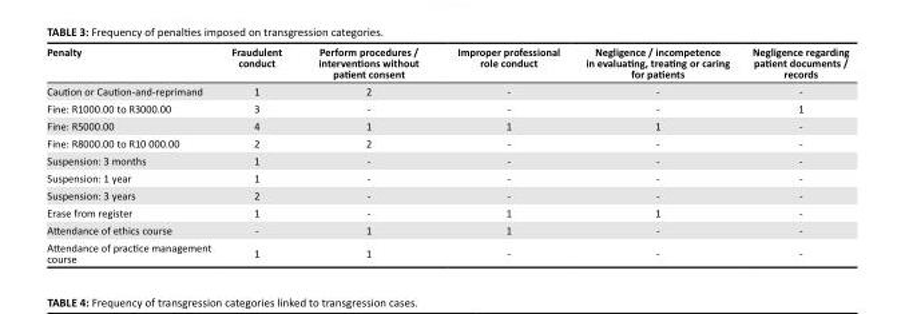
<table><thead><tr><td>Penalty</td><td>Fraudulent conduct</td><td>Perform procedures / interventions without patient consent</td><td>Improper professional role conduct</td><td>Negligence / incompetence in evaluating, treating or caring for patients</td><td>Negligence regarding patient documents / records</td></tr></thead><tbody><tr><td>Caution or Caution-and-reprimand</td><td>1</td><td>2</td><td>-</td><td>-</td><td>-</td></tr><tr><td>Fine: R1000.00 to R3000.00</td><td>3</td><td>-</td><td>-</td><td>-</td><td>1</td></tr><tr><td>Fine: R5000.00</td><td>4</td><td>1</td><td>1</td><td>1</td><td>-</td></tr><tr><td>Fine: R8000.00 to R10 000.00</td><td>2</td><td>2</td><td>-</td><td>-</td><td>-</td></tr><tr><td>Suspension: 3 months</td><td>1</td><td>-</td><td>-</td><td>-</td><td>-</td></tr><tr><td>Suspension: 1 year</td><td>1</td><td>-</td><td>-</td><td>-</td><td>-</td></tr><tr><td>Suspension: 3 years</td><td>2</td><td>-</td><td>-</td><td>-</td><td>-</td></tr><tr><td>Erase from register</td><td>1</td><td>-</td><td>1</td><td>1</td><td>-</td></tr><tr><td>Attendance of ethics course</td><td>-</td><td>1</td><td>1</td><td>-</td><td>-</td></tr><tr><td>Attendance of practice management course</td><td>1</td><td>1</td><td>-</td><td>-</td><td>-</td></tr></tbody></table>